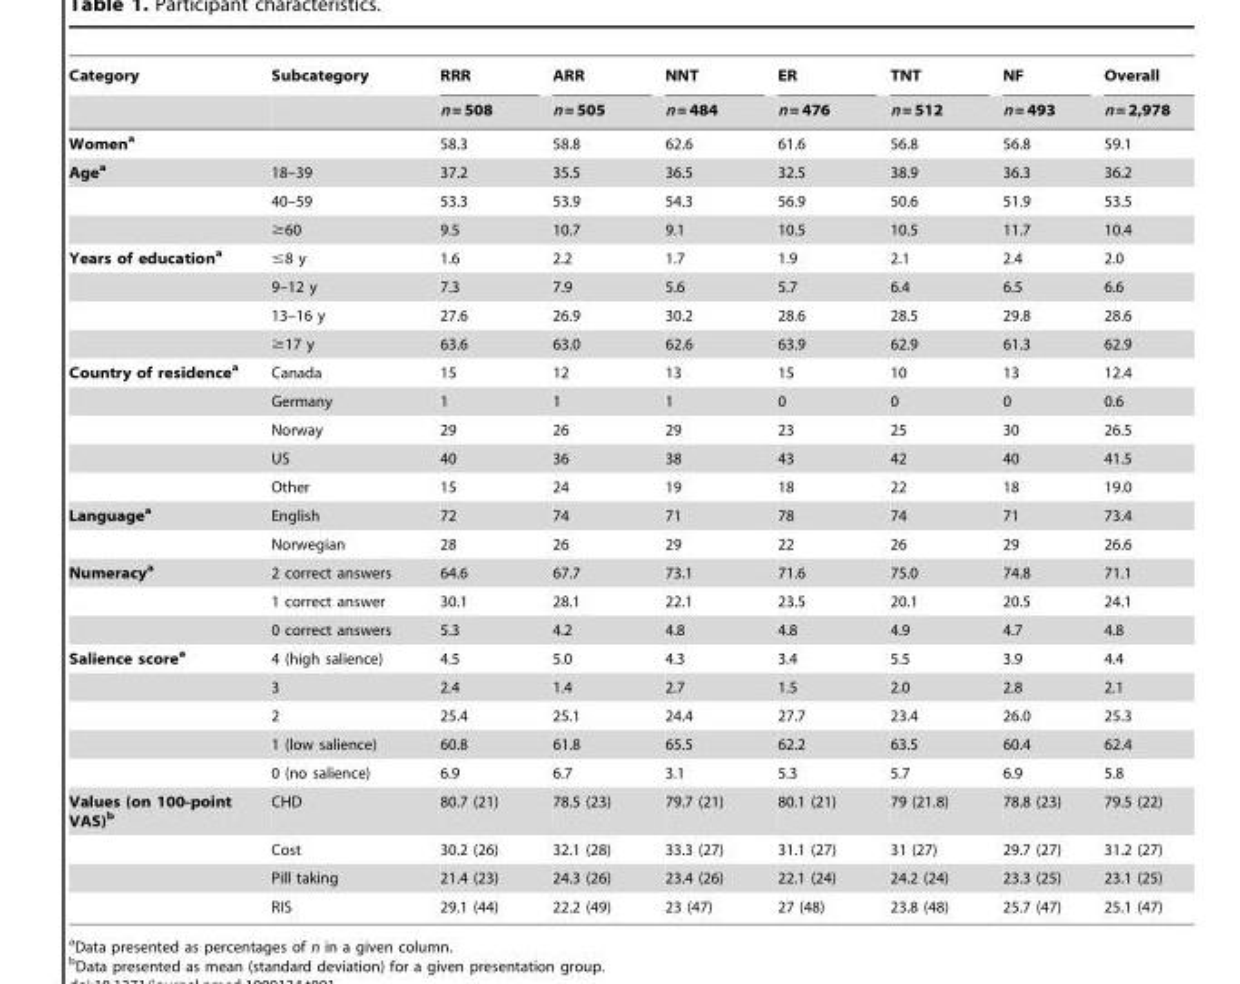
<table><thead><tr><td rowspan="2">Category</td><td rowspan="2">Subcategory</td><td rowspan="2">RRR n = 508</td><td rowspan="2">ARR n = 505</td><td rowspan="2">NNT n = 484</td><td rowspan="2">ER n = 476</td><td rowspan="2">TNT n = 512</td><td rowspan="2">NF n = 493</td><td rowspan="2">Overall n = 2,978</td></tr><tr></tr></thead><tbody><tr><td>Womena</td><td></td><td>58.3</td><td>58.8</td><td>62.6</td><td>61.6</td><td>56.8</td><td>56.8</td><td>59.1</td></tr><tr><td rowspan="3">Agea</td><td>18–39</td><td>37.2</td><td>35.5</td><td>36.5</td><td>32.5</td><td>38.9</td><td>36.3</td><td>36.2</td></tr><tr><td>40–59</td><td>53.3</td><td>53.9</td><td>54.3</td><td>56.9</td><td>50.6</td><td>51.9</td><td>53.5</td></tr><tr><td>≥60</td><td>9.5</td><td>10.7</td><td>9.1</td><td>10.5</td><td>10.5</td><td>11.7</td><td>10.4</td></tr><tr><td rowspan="4">Years of educationa</td><td>≤8 y</td><td>1.6</td><td>2.2</td><td>1.7</td><td>1.9</td><td>2.1</td><td>2.4</td><td>2.0</td></tr><tr><td>9–12 y</td><td>7.3</td><td>7.9</td><td>5.6</td><td>5.7</td><td>6.4</td><td>6.5</td><td>6.6</td></tr><tr><td>13–16 y</td><td>27.6</td><td>26.9</td><td>30.2</td><td>28.6</td><td>28.5</td><td>29.8</td><td>28.6</td></tr><tr><td>≥17 y</td><td>63.6</td><td>63.0</td><td>62.6</td><td>63.9</td><td>62.9</td><td>61.3</td><td>62.9</td></tr><tr><td rowspan="5">Country of residencea</td><td>Canada</td><td>15</td><td>12</td><td>13</td><td>15</td><td>10</td><td>13</td><td>12.4</td></tr><tr><td>Germany</td><td>1</td><td>1</td><td>1</td><td>0</td><td>0</td><td>0</td><td>0.6</td></tr><tr><td>Norway</td><td>29</td><td>26</td><td>29</td><td>23</td><td>25</td><td>30</td><td>26.5</td></tr><tr><td>US</td><td>40</td><td>36</td><td>38</td><td>43</td><td>42</td><td>40</td><td>41.5</td></tr><tr><td>Other</td><td>15</td><td>24</td><td>19</td><td>18</td><td>22</td><td>18</td><td>19.0</td></tr><tr><td rowspan="2">Languagea</td><td>English</td><td>72</td><td>74</td><td>71</td><td>78</td><td>74</td><td>71</td><td>73.4</td></tr><tr><td>Norwegian</td><td>28</td><td>26</td><td>29</td><td>22</td><td>26</td><td>29</td><td>26.6</td></tr><tr><td rowspan="3">Numeracya</td><td>2 correct answers</td><td>64.6</td><td>67.7</td><td>73.1</td><td>71.6</td><td>75.0</td><td>74.8</td><td>71.1</td></tr><tr><td>1 correct answer</td><td>30.1</td><td>28.1</td><td>22.1</td><td>23.5</td><td>20.1</td><td>20.5</td><td>24.1</td></tr><tr><td>0 correct answers</td><td>5.3</td><td>4.2</td><td>4.8</td><td>4.8</td><td>4.9</td><td>4.7</td><td>4.8</td></tr><tr><td rowspan="5">Salience scorea</td><td>4 (high salience)</td><td>4.5</td><td>5.0</td><td>4.3</td><td>3.4</td><td>5.5</td><td>3.9</td><td>4.4</td></tr><tr><td>3</td><td>2.4</td><td>1.4</td><td>2.7</td><td>1.5</td><td>2.0</td><td>2.8</td><td>2.1</td></tr><tr><td>2</td><td>25.4</td><td>25.1</td><td>24.4</td><td>27.7</td><td>23.4</td><td>26.0</td><td>25.3</td></tr><tr><td>1 (low salience)</td><td>60.8</td><td>61.8</td><td>65.5</td><td>62.2</td><td>63.5</td><td>60.4</td><td>62.4</td></tr><tr><td>0 (no salience)</td><td>6.9</td><td>6.7</td><td>3.1</td><td>5.3</td><td>5.7</td><td>6.9</td><td>5.8</td></tr><tr><td rowspan="4">Values (on 100-point VAS)b</td><td>CHD</td><td>80.7 (21)</td><td>78.5 (23)</td><td>79.7 (21)</td><td>80.1 (21)</td><td>79 (21.8)</td><td>78.8 (23)</td><td>79.5 (22)</td></tr><tr><td>Cost</td><td>30.2 (26)</td><td>32.1 (28)</td><td>33.3 (27)</td><td>31.1 (27)</td><td>31 (27)</td><td>29.7 (27)</td><td>31.2 (27)</td></tr><tr><td>Pill taking</td><td>21.4 (23)</td><td>24.3 (26)</td><td>23.4 (26)</td><td>22.1 (24)</td><td>24.2 (24)</td><td>23.3 (25)</td><td>23.1 (25)</td></tr><tr><td>RIS</td><td>29.1 (44)</td><td>22.2 (49)</td><td>23 (47)</td><td>27 (48)</td><td>23.8 (48)</td><td>25.7 (47)</td><td>25.1 (47)</td></tr></tbody></table>